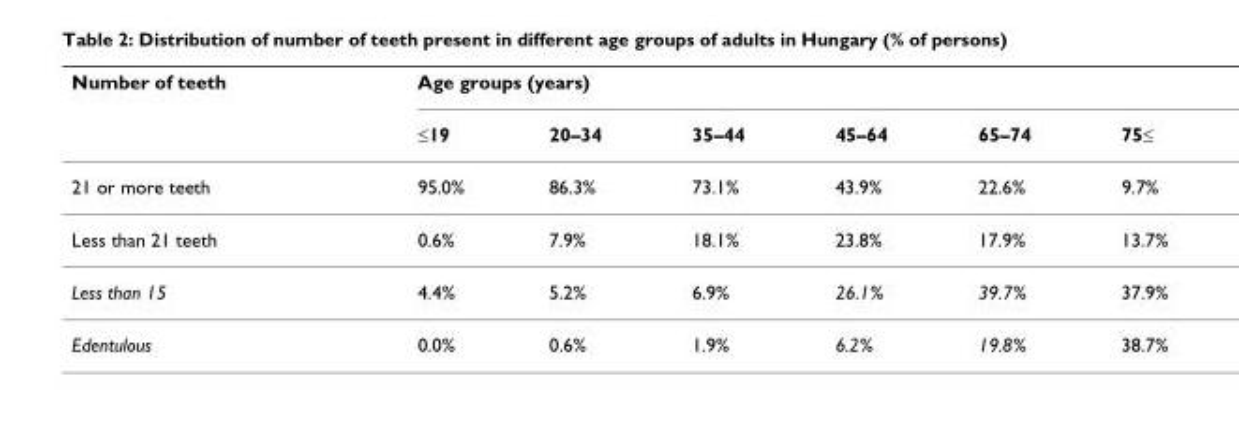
<table><thead><tr><td rowspan="2">Number of teeth</td><td colspan="6">Age groups (years)</td></tr><tr><td>≤19</td><td>20–34</td><td>35–44</td><td>45–64</td><td>65–74</td><td>75≤</td></tr></thead><tbody><tr><td>21 or more teeth</td><td>95.0%</td><td>86.3%</td><td>73.1%</td><td>43.9%</td><td>22.6%</td><td>9.7%</td></tr><tr><td>Less than 21 teeth</td><td>0.6%</td><td>7.9%</td><td>18.1%</td><td>23.8%</td><td>17.9%</td><td>13.7%</td></tr><tr><td>Less than 15</td><td>4.4%</td><td>5.2%</td><td>6.9%</td><td>26.1%</td><td>39.7%</td><td>37.9%</td></tr><tr><td>Edentulous</td><td>0.0%</td><td>0.6%</td><td>1.9%</td><td>6.2%</td><td>19.8%</td><td>38.7%</td></tr></tbody></table>